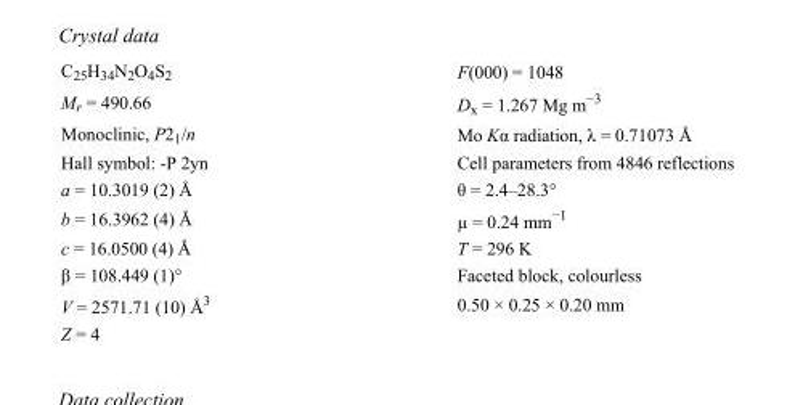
<table><tbody><tr><td>C<sub>25</sub>H<sub>34</sub>N<sub>2</sub>O<sub>4</sub>S<sub>2</sub></td><td>F(000) = 1048</td></tr><tr><td>M<sub>r</sub> = 490.66</td><td>D<sub>x</sub> = 1.267 Mg m<sup>−3</sup></td></tr><tr><td>Monoclinic, P2<sub>1</sub>/n</td><td>Mo Kα radiation, λ = 0.71073 Å</td></tr><tr><td>Hall symbol: -P 2yn</td><td>Cell parameters from 4846 reflections</td></tr><tr><td>a = 10.3019 (2) Å</td><td>θ = 2.4–28.3°</td></tr><tr><td>b = 16.3962 (4) Å</td><td>µ = 0.24 mm<sup>−1</sup></td></tr><tr><td>c = 16.0500 (4) Å</td><td>T = 296 K</td></tr><tr><td>β = 108.449 (1)°</td><td>Faceted block, colourless</td></tr><tr><td>V = 2571.71 (10) Å<sup>3</sup></td><td>0.50 × 0.25 × 0.20 mm</td></tr><tr><td>Z = 4</td><td></td></tr></tbody></table>